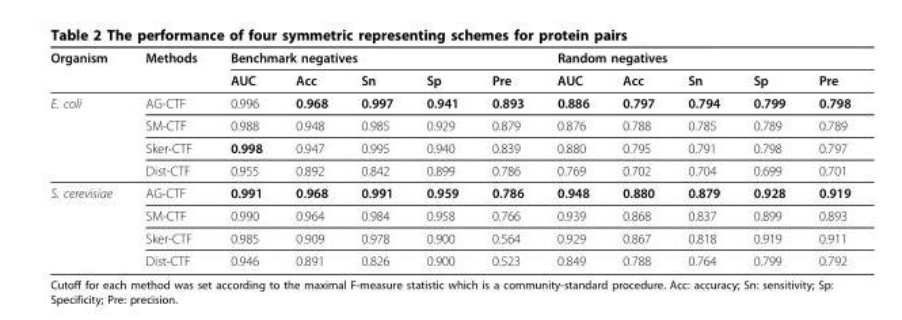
<table><thead><tr><td rowspan="2">Organism</td><td rowspan="2">Methods</td><td colspan="5">Benchmark negatives</td><td colspan="5">Random negatives</td></tr><tr><td>AUC</td><td>Acc</td><td>Sn</td><td>Sp</td><td>Pre</td><td>AUC</td><td>Acc</td><td>Sn</td><td>Sp</td><td>Pre</td></tr></thead><tbody><tr><td rowspan="4">E. coli</td><td>AG-CTF</td><td>0.996</td><td>0.968</td><td>0.997</td><td>0.941</td><td>0.893</td><td>0.886</td><td>0.797</td><td>0.794</td><td>0.799</td><td>0.798</td></tr><tr><td>SM-CTF</td><td>0.988</td><td>0.948</td><td>0.985</td><td>0.929</td><td>0.879</td><td>0.876</td><td>0.788</td><td>0.785</td><td>0.789</td><td>0.789</td></tr><tr><td>Sker-CTF</td><td>0.998</td><td>0.947</td><td>0.995</td><td>0.940</td><td>0.839</td><td>0.880</td><td>0.795</td><td>0.791</td><td>0.798</td><td>0.797</td></tr><tr><td>Dist-CTF</td><td>0.955</td><td>0.892</td><td>0.842</td><td>0.899</td><td>0.786</td><td>0.769</td><td>0.702</td><td>0.704</td><td>0.699</td><td>0.701</td></tr><tr><td rowspan="4">S. cerevisiae</td><td>AG-CTF</td><td>0.991</td><td>0.968</td><td>0.991</td><td>0.959</td><td>0.786</td><td>0.948</td><td>0.880</td><td>0.879</td><td>0.928</td><td>0.919</td></tr><tr><td>SM-CTF</td><td>0.990</td><td>0.964</td><td>0.984</td><td>0.958</td><td>0.766</td><td>0.939</td><td>0.868</td><td>0.837</td><td>0.899</td><td>0.893</td></tr><tr><td>Sker-CTF</td><td>0.985</td><td>0.909</td><td>0.978</td><td>0.900</td><td>0.564</td><td>0.929</td><td>0.867</td><td>0.818</td><td>0.919</td><td>0.911</td></tr><tr><td>Dist-CTF</td><td>0.946</td><td>0.891</td><td>0.826</td><td>0.900</td><td>0.523</td><td>0.849</td><td>0.788</td><td>0.764</td><td>0.799</td><td>0.792</td></tr></tbody></table>